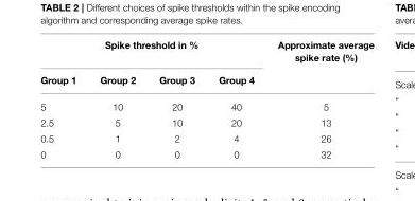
<table><thead><tr><td colspan="4">Spike threshold in %</td><td rowspan="2">Approximate average spike rate (%)</td></tr><tr><td>Group 1</td><td>Group 2</td><td>Group 3</td><td>Group 4</td></tr></thead><tbody><tr><td>5</td><td>10</td><td>20</td><td>40</td><td>5</td></tr><tr><td>2.5</td><td>5</td><td>10</td><td>20</td><td>13</td></tr><tr><td>0.5</td><td>1</td><td>2</td><td>4</td><td>26</td></tr><tr><td>0</td><td>0</td><td>0</td><td>0</td><td>32</td></tr></tbody></table>